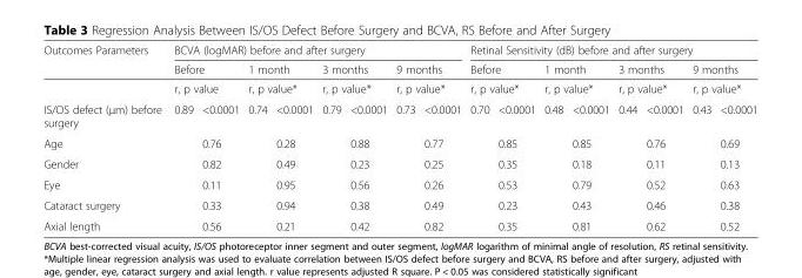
<table><thead><tr><td rowspan="4">Outcomes Parameters IS/OS defect (μm) before surgery</td><td colspan="8">BCVA (logMAR) before and after surgery</td><td colspan="8">Retinal Sensitivity (dB) before and after surgery</td></tr><tr><td rowspan="2" colspan="2">Before r, p value</td><td rowspan="2" colspan="2">1 month r, p value*</td><td rowspan="2" colspan="2">3 months r, p value*</td><td rowspan="2" colspan="2">9 months r, p value*</td><td rowspan="2" colspan="2">Before r, p value*</td><td rowspan="2" colspan="2">1 month r, p value*</td><td rowspan="2" colspan="2">3 months r, p value*</td><td rowspan="2" colspan="2">9 months r, p value*</td></tr><tr></tr><tr><td>0.89</td><td>&lt;0.0001</td><td>0.74</td><td>&lt;0.0001</td><td>0.79</td><td>&lt;0.0001</td><td>0.73</td><td>&lt;0.0001</td><td>0.70</td><td>&lt;0.0001</td><td>0.48</td><td>&lt;0.0001</td><td>0.44</td><td>&lt;0.0001</td><td>0.43</td><td>&lt;0.0001</td></tr></thead><tbody><tr><td>Age</td><td></td><td>0.76</td><td></td><td>0.28</td><td></td><td>0.88</td><td></td><td>0.77</td><td></td><td>0.85</td><td></td><td>0.85</td><td></td><td>0.76</td><td></td><td>0.69</td></tr><tr><td>Gender</td><td></td><td>0.82</td><td></td><td>0.49</td><td></td><td>0.23</td><td></td><td>0.25</td><td></td><td>0.35</td><td></td><td>0.18</td><td></td><td>0.11</td><td></td><td>0.13</td></tr><tr><td>Eye</td><td></td><td>0.11</td><td></td><td>0.95</td><td></td><td>0.56</td><td></td><td>0.26</td><td></td><td>0.53</td><td></td><td>0.79</td><td></td><td>0.52</td><td></td><td>0.63</td></tr><tr><td>Cataract surgery</td><td></td><td>0.33</td><td></td><td>0.94</td><td></td><td>0.38</td><td></td><td>0.49</td><td></td><td>0.23</td><td></td><td>0.43</td><td></td><td>0.46</td><td></td><td>0.38</td></tr><tr><td>Axial length</td><td></td><td>0.56</td><td></td><td>0.21</td><td></td><td>0.42</td><td></td><td>0.82</td><td></td><td>0.35</td><td></td><td>0.81</td><td></td><td>0.62</td><td></td><td>0.52</td></tr></tbody></table>